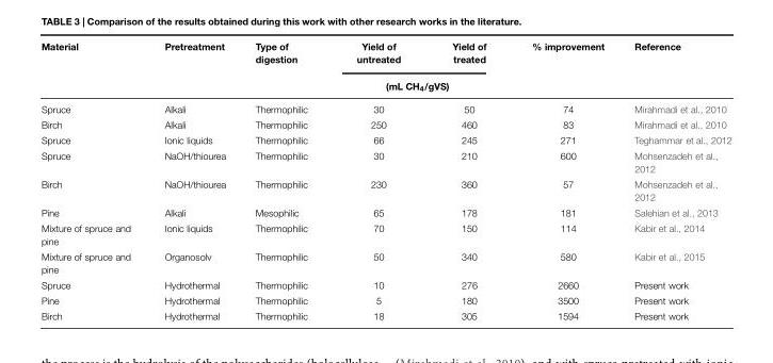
<table><thead><tr><td rowspan="2">Material</td><td rowspan="2">Pretreatment</td><td rowspan="2">Type of digestion</td><td>Yield of untreated</td><td>Yield of treated</td><td rowspan="2">% improvement</td><td rowspan="2">Reference</td></tr><tr><td colspan="2">(mL CH<sub>4</sub>/gVS)</td></tr></thead><tbody><tr><td>Spruce</td><td>Alkali</td><td>Thermophilic</td><td>30</td><td>50</td><td>74</td><td>Mirahmadi et al., 2010</td></tr><tr><td>Birch</td><td>Alkali</td><td>Thermophilic</td><td>250</td><td>460</td><td>83</td><td>Mirahmadi et al., 2010</td></tr><tr><td>Spruce</td><td>Ionic liquids</td><td>Thermophilic</td><td>66</td><td>245</td><td>271</td><td>Teghammar et al., 2012</td></tr><tr><td>Spruce</td><td>NaOH/thiourea</td><td>Thermophilic</td><td>30</td><td>210</td><td>600</td><td>Mohsenzadeh et al., 2012</td></tr><tr><td>Birch</td><td>NaOH/thiourea</td><td>Thermophilic</td><td>230</td><td>360</td><td>57</td><td>Mohsenzadeh et al., 2012</td></tr><tr><td>Pine</td><td>Alkali</td><td>Mesophilic</td><td>65</td><td>178</td><td>181</td><td>Salehian et al., 2013</td></tr><tr><td>Mixture of spruce and pine</td><td>Ionic liquids</td><td>Thermophilic</td><td>70</td><td>150</td><td>114</td><td>Kabir et al., 2014</td></tr><tr><td>Mixture of spruce and pine</td><td>Organosolv</td><td>Thermophilic</td><td>50</td><td>340</td><td>580</td><td>Kabir et al., 2015</td></tr><tr><td>Spruce</td><td>Hydrothermal</td><td>Thermophilic</td><td>10</td><td>276</td><td>2660</td><td>Present work</td></tr><tr><td>Pine</td><td>Hydrothermal</td><td>Thermophilic</td><td>5</td><td>180</td><td>3500</td><td>Present work</td></tr><tr><td>Birch</td><td>Hydrothermal</td><td>Thermophilic</td><td>18</td><td>305</td><td>1594</td><td>Present work</td></tr></tbody></table>